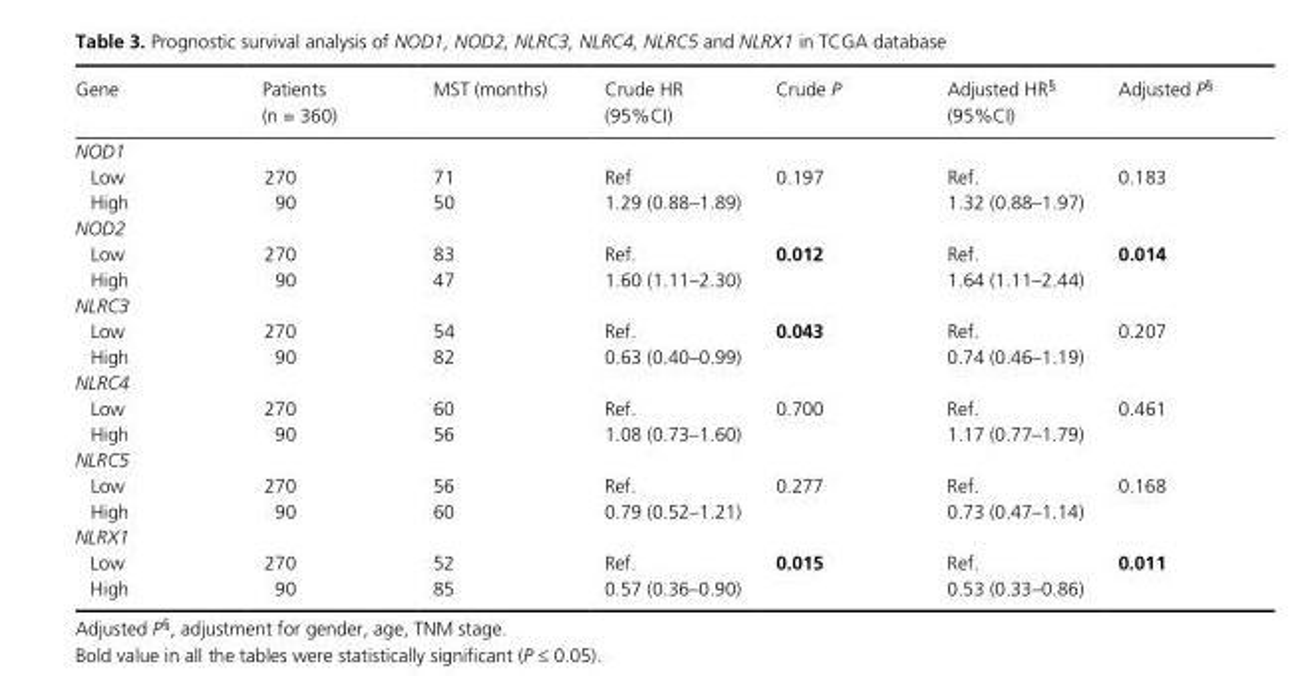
<table><thead><tr><td>Gene</td><td>Patients (n = 360)</td><td>MST (months)</td><td>Crude HR (95%CI)</td><td>Crude P</td><td>Adjusted HR<sup>§</sup> (95%CI)</td><td>Adjusted P<sup>§</sup></td></tr></thead><tbody><tr><td colspan="7">NOD1</td></tr><tr><td>Low</td><td>270</td><td>71</td><td>Ref</td><td>0.197</td><td>Ref.</td><td>0.183</td></tr><tr><td>High</td><td>90</td><td>50</td><td>1.29 (0.88–1.89)</td><td></td><td>1.32 (0.88–1.97)</td><td></td></tr><tr><td colspan="7">NOD2</td></tr><tr><td>Low</td><td>270</td><td>83</td><td>Ref.</td><td>0.012</td><td>Ref.</td><td>0.014</td></tr><tr><td>High</td><td>90</td><td>47</td><td>1.60 (1.11–2.30)</td><td></td><td>1.64 (1.11–2.44)</td><td></td></tr><tr><td colspan="7">NLRC3</td></tr><tr><td>Low</td><td>270</td><td>54</td><td>Ref.</td><td>0.043</td><td>Ref.</td><td>0.207</td></tr><tr><td>High</td><td>90</td><td>82</td><td>0.63 (0.40–0.99)</td><td></td><td>0.74 (0.46–1.19)</td><td></td></tr><tr><td colspan="7">NLRC4</td></tr><tr><td>Low</td><td>270</td><td>60</td><td>Ref.</td><td>0.700</td><td>Ref.</td><td>0.461</td></tr><tr><td>High</td><td>90</td><td>56</td><td>1.08 (0.73–1.60)</td><td></td><td>1.17 (0.77–1.79)</td><td></td></tr><tr><td colspan="7">NLRC5</td></tr><tr><td>Low</td><td>270</td><td>56</td><td>Ref.</td><td>0.277</td><td>Ref.</td><td>0.168</td></tr><tr><td>High</td><td>90</td><td>60</td><td>0.79 (0.52–1.21)</td><td></td><td>0.73 (0.47–1.14)</td><td></td></tr><tr><td colspan="7">NLRX1</td></tr><tr><td>Low</td><td>270</td><td>52</td><td>Ref.</td><td>0.015</td><td>Ref.</td><td>0.011</td></tr><tr><td>High</td><td>90</td><td>85</td><td>0.57 (0.36–0.90)</td><td></td><td>0.53 (0.33–0.86)</td><td></td></tr></tbody></table>